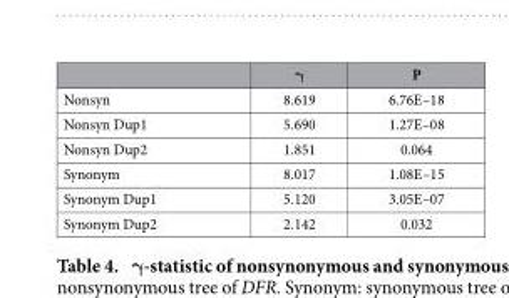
<table><thead><tr><td></td><td>γ</td><td>P</td></tr></thead><tbody><tr><td>Nonsyn</td><td>8.619</td><td>6.76E–18</td></tr><tr><td>Nonsyn Dup1</td><td>5.690</td><td>1.27E–08</td></tr><tr><td>Nonsyn Dup2</td><td>1.851</td><td>0.064</td></tr><tr><td>Synonym</td><td>8.017</td><td>1.08E–15</td></tr><tr><td>Synonym Dup1</td><td>5.120</td><td>3.05E–07</td></tr><tr><td>Synonym Dup2</td><td>2.142</td><td>0.032</td></tr></tbody></table>